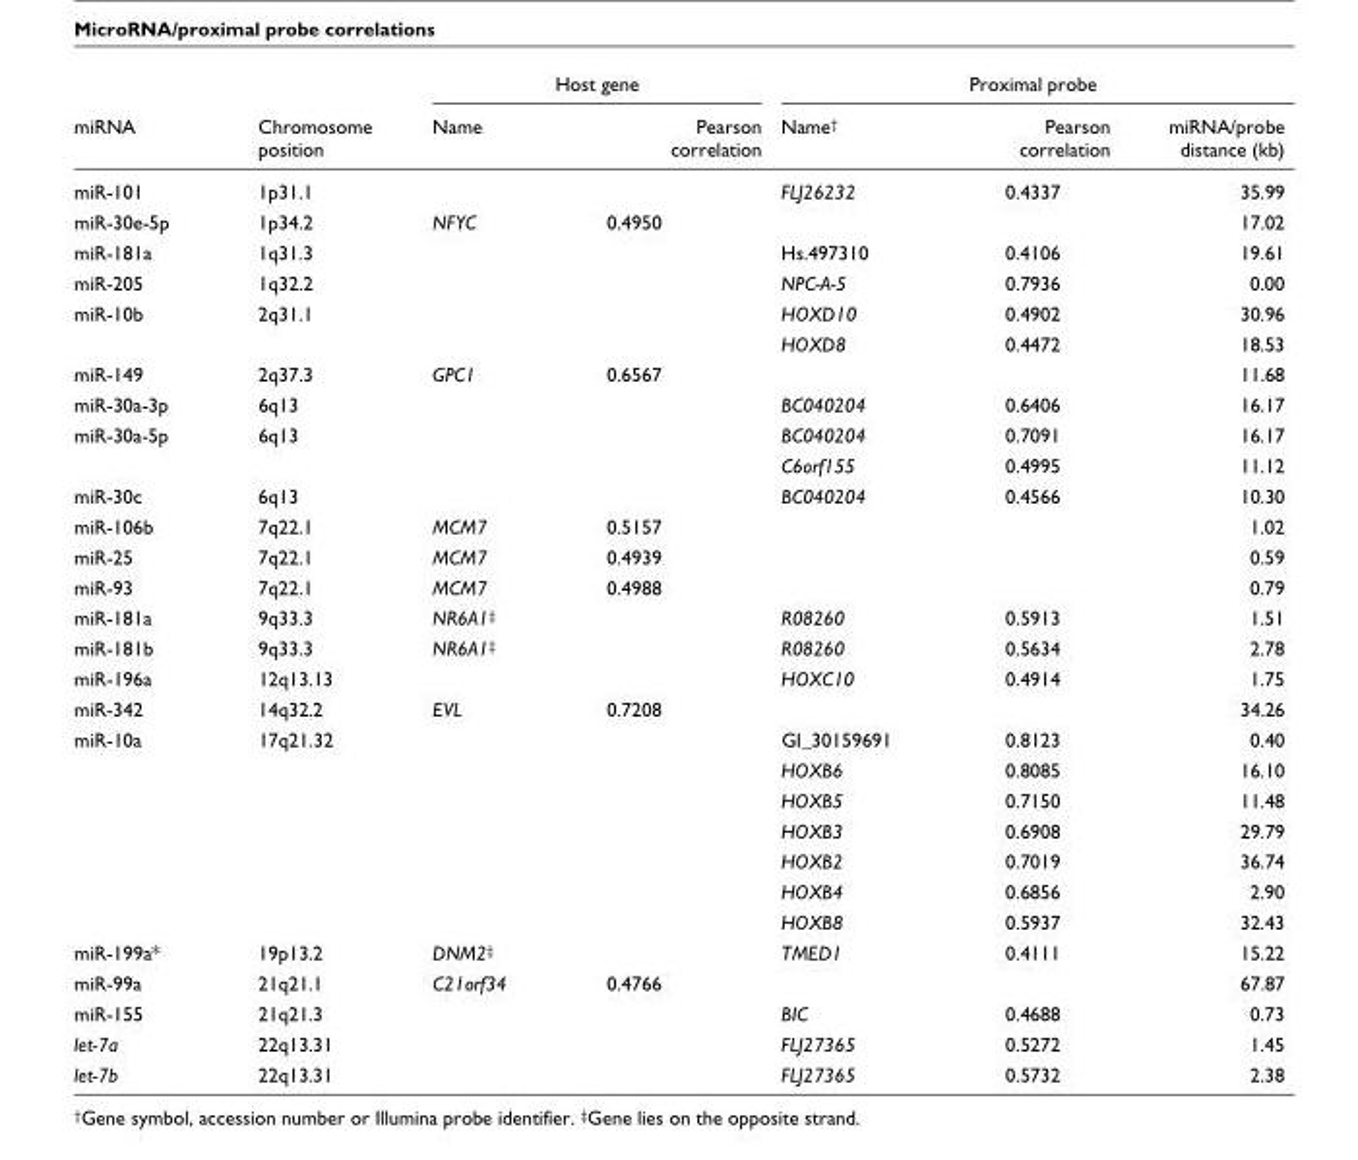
<table><thead><tr><td rowspan="2">miRNA</td><td rowspan="2">Chromosome position</td><td colspan="2">Host gene</td><td colspan="3">Proximal probe</td></tr><tr><td>Name</td><td>Pearson correlation</td><td>Name<sup>†</sup></td><td>Pearson correlation</td><td>miRNA/probe distance (kb)</td></tr></thead><tbody><tr><td>miR-101</td><td>1p31.1</td><td></td><td></td><td>FLJ26232</td><td>0.4337</td><td>35.99</td></tr><tr><td>miR-30e-5p</td><td>1p34.2</td><td>NFYC</td><td>0.4950</td><td></td><td></td><td>17.02</td></tr><tr><td>miR-181a</td><td>1q31.3</td><td></td><td></td><td>Hs.497310</td><td>0.4106</td><td>19.61</td></tr><tr><td>miR-205</td><td>1q32.2</td><td></td><td></td><td>NPC-A-5</td><td>0.7936</td><td>0.00</td></tr><tr><td rowspan="2">miR-10b</td><td>2q31.1</td><td></td><td></td><td>HOXD10</td><td>0.4902</td><td>30.96</td></tr><tr><td></td><td></td><td></td><td>HOXD8</td><td>0.4472</td><td>18.53</td></tr><tr><td>miR-149</td><td>2q37.3</td><td>GPC1</td><td>0.6567</td><td></td><td></td><td>11.68</td></tr><tr><td>miR-30a-3p</td><td>6q13</td><td></td><td></td><td>BC040204</td><td>0.6406</td><td>16.17</td></tr><tr><td rowspan="2">miR-30a-5p</td><td>6q13</td><td></td><td></td><td>BC040204</td><td>0.7091</td><td>16.17</td></tr><tr><td></td><td></td><td></td><td>C6orf155</td><td>0.4995</td><td>11.12</td></tr><tr><td>miR-30c</td><td>6q13</td><td></td><td></td><td>BC040204</td><td>0.4566</td><td>10.30</td></tr><tr><td>miR-106b</td><td>7q22.1</td><td>MCM7</td><td>0.5157</td><td></td><td></td><td>1.02</td></tr><tr><td>miR-25</td><td>7q22.1</td><td>MCM7</td><td>0.4939</td><td></td><td></td><td>0.59</td></tr><tr><td>miR-93</td><td>7q22.1</td><td>MCM7</td><td>0.4988</td><td></td><td></td><td>0.79</td></tr><tr><td>miR-181a</td><td>9q33.3</td><td>NR6A1<sup>‡</sup></td><td></td><td>R08260</td><td>0.5913</td><td>1.51</td></tr><tr><td>miR-181b</td><td>9q33.3</td><td>NR6A1<sup>‡</sup></td><td></td><td>R08260</td><td>0.5634</td><td>2.78</td></tr><tr><td>miR-196a</td><td>12q13.13</td><td></td><td></td><td>HOXC10</td><td>0.4914</td><td>1.75</td></tr><tr><td>miR-342</td><td>14q32.2</td><td>EVL</td><td>0.7208</td><td></td><td></td><td>34.26</td></tr><tr><td rowspan="7">miR-10a</td><td>17q21.32</td><td></td><td></td><td>GI_30159691</td><td>0.8123</td><td>0.40</td></tr><tr><td></td><td></td><td></td><td>HOXB6</td><td>0.8085</td><td>16.10</td></tr><tr><td></td><td></td><td></td><td>HOXB5</td><td>0.7150</td><td>11.48</td></tr><tr><td></td><td></td><td></td><td>HOXB3</td><td>0.6908</td><td>29.79</td></tr><tr><td></td><td></td><td></td><td>HOXB2</td><td>0.7019</td><td>36.74</td></tr><tr><td></td><td></td><td></td><td>HOXB4</td><td>0.6856</td><td>2.90</td></tr><tr><td></td><td></td><td></td><td>HOXB8</td><td>0.5937</td><td>32.43</td></tr><tr><td>miR-199a*</td><td>19p13.2</td><td>DNM2<sup>‡</sup></td><td></td><td>TMED1</td><td>0.4111</td><td>15.22</td></tr><tr><td>miR-99a</td><td>21q21.1</td><td>C21orf34</td><td>0.4766</td><td></td><td></td><td>67.87</td></tr><tr><td>miR-155</td><td>21q21.3</td><td></td><td></td><td>BIC</td><td>0.4688</td><td>0.73</td></tr><tr><td>let-7a</td><td>22q13.31</td><td></td><td></td><td>FLJ27365</td><td>0.5272</td><td>1.45</td></tr><tr><td>let-7b</td><td>22q13.31</td><td></td><td></td><td>FLJ27365</td><td>0.5732</td><td>2.38</td></tr></tbody></table>